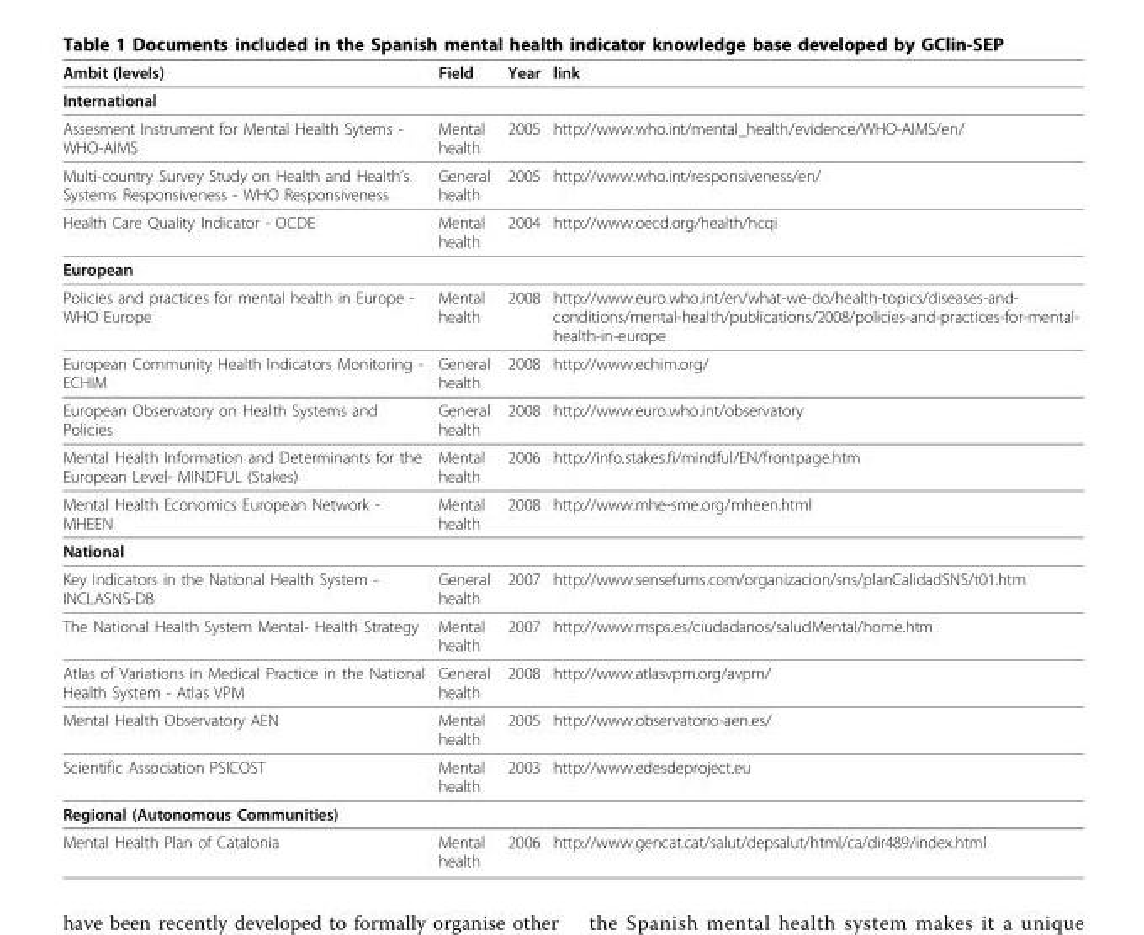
<table><thead><tr><td>Ambit (levels)</td><td>Field</td><td>Year</td><td>link</td></tr></thead><tbody><tr><td colspan="4">International</td></tr><tr><td>Assesment Instrument for Mental Health Sytems - WHO-AIMS</td><td>Mental health</td><td>2005</td><td>http://www.who.int/mental_health/evidence/WHO-AIMS/en/</td></tr><tr><td>Multi-country Survey Study on Health and Health’s Systems Responsiveness - WHO Responsiveness</td><td>General health</td><td>2005</td><td>http://www.who.int/responsiveness/en/</td></tr><tr><td>Health Care Quality Indicator - OCDE</td><td>Mental health</td><td>2004</td><td>http://www.oecd.org/health/hcqi</td></tr><tr><td colspan="4">European</td></tr><tr><td>Policies and practices for mental health in Europe - WHO Europe</td><td>Mental health</td><td>2008</td><td>http://www.euro.who.int/en/what-we-do/health-topics/diseases-and- conditions/mental-health/publications/2008/policies-and-practices-for-mental- health-in-europe</td></tr><tr><td>European Community Health Indicators Monitoring - ECHIM</td><td>General health</td><td>2008</td><td>http://www.echim.org/</td></tr><tr><td>European Observatory on Health Systems and Policies</td><td>General health</td><td>2008</td><td>http://www.euro.who.int/observatory</td></tr><tr><td>Mental Health Information and Determinants for the European Level- MINDFUL (Stakes)</td><td>Mental health</td><td>2006</td><td>http://info.stakes.fi/mindful/EN/frontpage.htm</td></tr><tr><td>Mental Health Economics European Network - MHEEN</td><td>Mental health</td><td>2008</td><td>http://www.mhe-sme.org/mheen.html</td></tr><tr><td colspan="4">National</td></tr><tr><td>Key Indicators in the National Health System - INCLASNS-DB</td><td>General health</td><td>2007</td><td>http://www.sensefums.com/organizacion/sns/planCalidadSNS/t01.htm</td></tr><tr><td>The National Health System Mental- Health Strategy</td><td>Mental health</td><td>2007</td><td>http://www.msps.es/ciudadanos/saludMental/home.htm</td></tr><tr><td>Atlas of Variations in Medical Practice in the National Health System - Atlas VPM</td><td>General health</td><td>2008</td><td>http://www.atlasvpm.org/avpm/</td></tr><tr><td>Mental Health Observatory AEN</td><td>Mental health</td><td>2005</td><td>http://www.observatorio-aen.es/</td></tr><tr><td>Scientific Association PSICOST</td><td>Mental health</td><td>2003</td><td>http://www.edesdeproject.eu</td></tr><tr><td colspan="4">Regional (Autonomous Communities)</td></tr><tr><td>Mental Health Plan of Catalonia</td><td>Mental health</td><td>2006</td><td>http://www.gencat.cat/salut/depsalut/html/ca/dir489/index.html</td></tr></tbody></table>